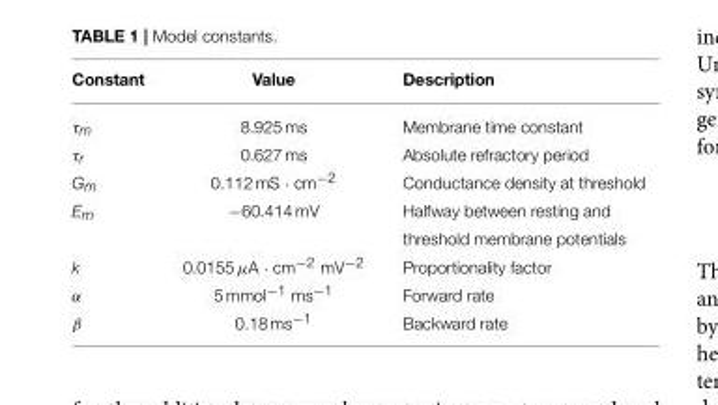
<table><thead><tr><td>Constant</td><td>Value</td><td>Description</td></tr></thead><tbody><tr><td>τ<sub>m</sub></td><td>8.925 ms</td><td>Membrane time constant</td></tr><tr><td>τ<sub>r</sub></td><td>0.627 ms</td><td>Absolute refractory period</td></tr><tr><td>G<sub>m</sub></td><td>0.112 mS · cm<sup>−2</sup></td><td>Conductance density at threshold</td></tr><tr><td rowspan="2">E<sub>m</sub></td><td>−60.414 mV</td><td>Halfway between resting and</td></tr><tr><td></td><td>threshold membrane potentials</td></tr><tr><td>k</td><td>0.0155 µA · cm<sup>−2</sup> mV<sup>−2</sup></td><td>Proportionality factor</td></tr><tr><td>α</td><td>5 mmol<sup>−1</sup> ms<sup>−1</sup></td><td>Forward rate</td></tr><tr><td>β</td><td>0.18 ms<sup>−1</sup></td><td>Backward rate</td></tr></tbody></table>